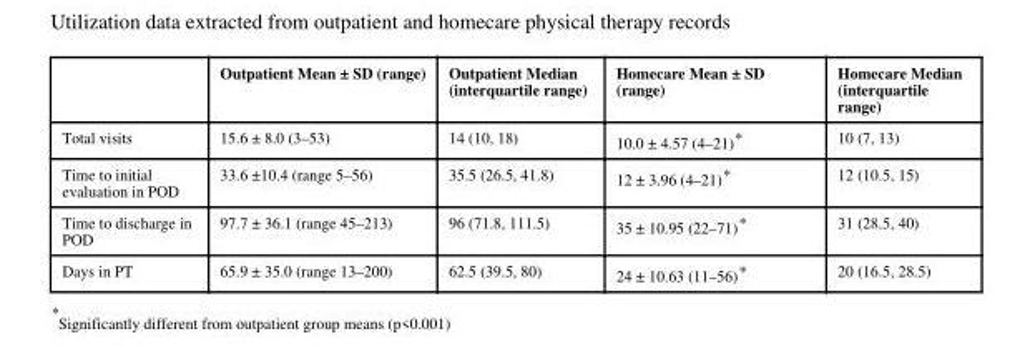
<table><thead><tr><td></td><td>Outpatient Mean ± SD (range)</td><td>Outpatient Median (interquartile range)</td><td>Homecare Mean ± SD (range)</td><td>Homecare Median (interquartile range)</td></tr></thead><tbody><tr><td>Total visits</td><td>15.6 ± 8.0 (3–53)</td><td>14 (10, 18)</td><td>10.0 ± 4.57 (4–21)*</td><td>10 (7, 13)</td></tr><tr><td>Time to initial evaluation in POD</td><td>33.6 ±10.4 (range 5–56)</td><td>35.5 (26.5, 41.8)</td><td>12 ± 3.96 (4–21)*</td><td>12 (10.5, 15)</td></tr><tr><td>Time to discharge in POD</td><td>97.7 ± 36.1 (range 45–213)</td><td>96 (71.8, 111.5)</td><td>35 ± 10.95 (22–71)*</td><td>31 (28.5, 40)</td></tr><tr><td>Days in PT</td><td>65.9 ± 35.0 (range 13–200)</td><td>62.5 (39.5, 80)</td><td>24 ± 10.63 (11–56)*</td><td>20 (16.5, 28.5)</td></tr></tbody></table>